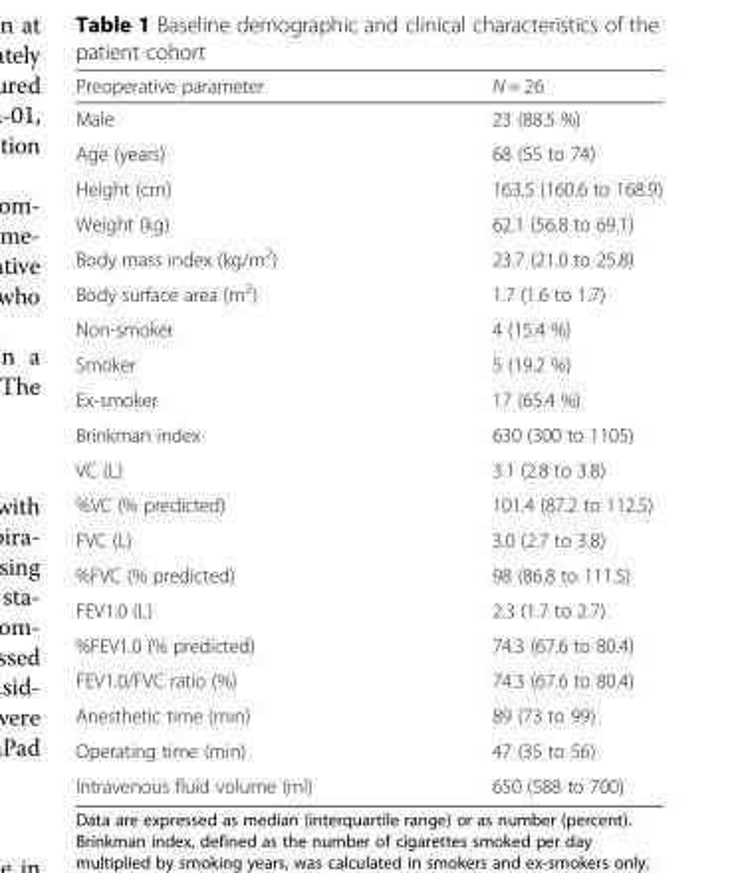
<table><thead><tr><td>Preoperative parameter</td><td>N = 26</td></tr></thead><tbody><tr><td>Male</td><td>23 (88.5 %)</td></tr><tr><td>Age (years)</td><td>68 (55 to 74)</td></tr><tr><td>Height (cm)</td><td>163.5 (160.6 to 168.9)</td></tr><tr><td>Weight (kg)</td><td>62.1 (56.8 to 69.1)</td></tr><tr><td>Body mass index (kg/m<sup>2</sup>)</td><td>23.7 (21.0 to 25.8)</td></tr><tr><td>Body surface area (m<sup>2</sup>)</td><td>1.7 (1.6 to 1.7)</td></tr><tr><td>Non-smoker</td><td>4 (15.4 %)</td></tr><tr><td>Smoker</td><td>5 (19.2 %)</td></tr><tr><td>Ex-smoker</td><td>17 (65.4 %)</td></tr><tr><td>Brinkman index</td><td>630 (300 to 1105)</td></tr><tr><td>VC (L)</td><td>3.1 (2.8 to 3.8)</td></tr><tr><td>%VC (% predicted)</td><td>101.4 (87.2 to 112.5)</td></tr><tr><td>FVC (L)</td><td>3.0 (2.7 to 3.8)</td></tr><tr><td>%FVC (% predicted)</td><td>98 (86.8 to 111.5)</td></tr><tr><td>FEV1.0 (L)</td><td>2.3 (1.7 to 2.7)</td></tr><tr><td>%FEV1.0 (% predicted)</td><td>74.3 (67.6 to 80.4)</td></tr><tr><td>FEV1.0/FVC ratio (%)</td><td>74.3 (67.6 to 80.4)</td></tr><tr><td>Anesthetic time (min)</td><td>89 (73 to 99)</td></tr><tr><td>Operating time (min)</td><td>47 (35 to 56)</td></tr><tr><td>Intravenous fluid volume (ml)</td><td>650 (588 to 700)</td></tr></tbody></table>